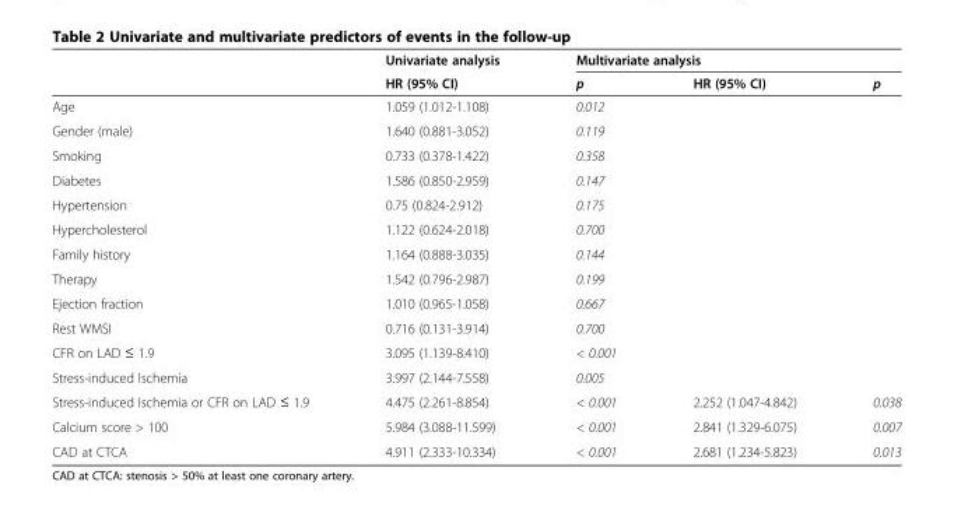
<table><thead><tr><td rowspan="2"></td><td rowspan="2">Univariate analysis HR (95% CI)</td><td colspan="3">Multivariate analysis</td></tr><tr><td>p</td><td>HR (95% CI)</td><td>p</td></tr></thead><tbody><tr><td>Age</td><td>1.059 (1.012-1.108)</td><td>0.012</td><td></td><td></td></tr><tr><td>Gender (male)</td><td>1.640 (0.881-3.052)</td><td>0.119</td><td></td><td></td></tr><tr><td>Smoking</td><td>0.733 (0.378-1.422)</td><td>0.358</td><td></td><td></td></tr><tr><td>Diabetes</td><td>1.586 (0.850-2.959)</td><td>0.147</td><td></td><td></td></tr><tr><td>Hypertension</td><td>0.75 (0.824-2.912)</td><td>0.175</td><td></td><td></td></tr><tr><td>Hypercholesterol</td><td>1.122 (0.624-2.018)</td><td>0.700</td><td></td><td></td></tr><tr><td>Family history</td><td>1.164 (0.888-3.035)</td><td>0.144</td><td></td><td></td></tr><tr><td>Therapy</td><td>1.542 (0.796-2.987)</td><td>0.199</td><td></td><td></td></tr><tr><td>Ejection fraction</td><td>1.010 (0.965-1.058)</td><td>0.667</td><td></td><td></td></tr><tr><td>Rest WMSI</td><td>0.716 (0.131-3.914)</td><td>0.700</td><td></td><td></td></tr><tr><td>CFR on LAD ≤ 1.9</td><td>3.095 (1.139-8.410)</td><td>&lt; 0.001</td><td></td><td></td></tr><tr><td>Stress-induced Ischemia</td><td>3.997 (2.144-7.558)</td><td>0.005</td><td></td><td></td></tr><tr><td>Stress-induced Ischemia or CFR on LAD ≤ 1.9</td><td>4.475 (2.261-8.854)</td><td>&lt; 0.001</td><td>2.252 (1.047-4.842)</td><td>0.038</td></tr><tr><td>Calcium score &gt; 100</td><td>5.984 (3.088-11.599)</td><td>&lt; 0.001</td><td>2.841 (1.329-6.075)</td><td>0.007</td></tr><tr><td>CAD at CTCA</td><td>4.911 (2.333-10.334)</td><td>&lt; 0.001</td><td>2.681 (1.234-5.823)</td><td>0.013</td></tr></tbody></table>